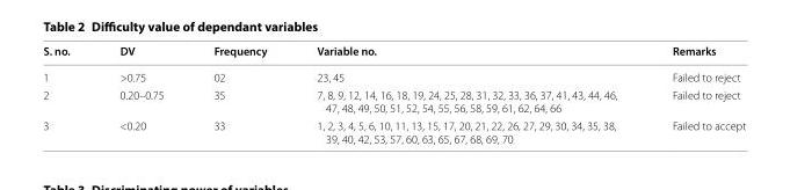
<table><thead><tr><td>S. no.</td><td>DV</td><td>Frequency</td><td>Variable no.</td><td>Remarks</td></tr></thead><tbody><tr><td>1</td><td>&gt;0.75</td><td>02</td><td>23, 45</td><td>Failed to reject</td></tr><tr><td>2</td><td>0.20–0.75</td><td>35</td><td>7, 8, 9, 12, 14, 16, 18, 19, 24, 25, 28, 31, 32, 33, 36, 37, 41, 43, 44, 46, 47, 48, 49, 50, 51, 52, 54, 55, 56, 58, 59, 61, 62, 64, 66</td><td>Failed to reject</td></tr><tr><td>3</td><td>&lt;0.20</td><td>33</td><td>1, 2, 3, 4, 5, 6, 10, 11, 13, 15, 17, 20, 21, 22, 26, 27, 29, 30, 34, 35, 38, 39, 40, 42, 53, 57, 60, 63, 65, 67, 68, 69, 70</td><td>Failed to accept</td></tr></tbody></table>